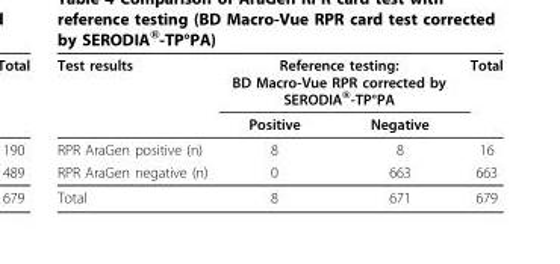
<table><thead><tr><td rowspan="2">Test results</td><td colspan="2">Reference testing: BD Macro-Vue RPR corrected by SERODIA®-TP°PA</td><td rowspan="2">Total</td></tr><tr><td>Positive</td><td>Negative</td></tr></thead><tbody><tr><td>RPR AraGen positive (n)</td><td>8</td><td>8</td><td>16</td></tr><tr><td>RPR AraGen negative (n)</td><td>0</td><td>663</td><td>663</td></tr><tr><td>Total</td><td>8</td><td>671</td><td>679</td></tr></tbody></table>